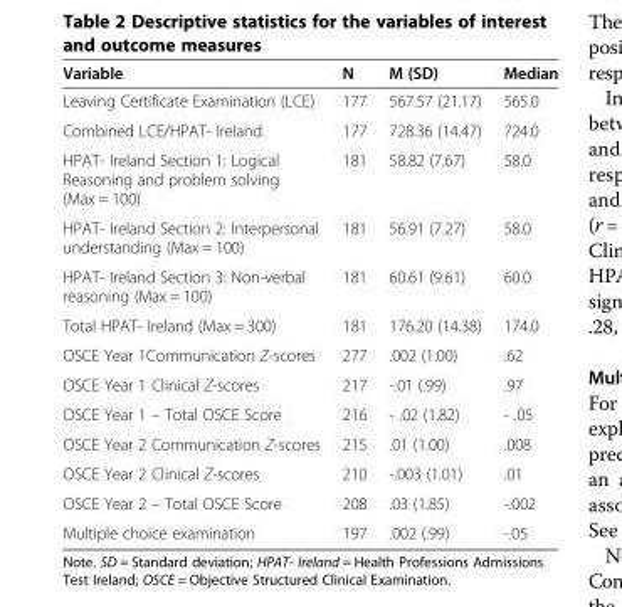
<table><thead><tr><td>Variable</td><td>N</td><td>M (SD)</td><td>Median</td></tr></thead><tbody><tr><td>Leaving Certificate Examination (LCE)</td><td>177</td><td>567.57 (21.17)</td><td>565.0</td></tr><tr><td>Combined LCE/HPAT- Ireland</td><td>177</td><td>728.36 (14.47)</td><td>724.0</td></tr><tr><td>HPAT- Ireland Section 1: Logical Reasoning and problem solving (Max = 100)</td><td>181</td><td>58.82 (7.67)</td><td>58.0</td></tr><tr><td>HPAT- Ireland Section 2: Interpersonal understanding (Max = 100)</td><td>181</td><td>56.91 (7.27)</td><td>58.0</td></tr><tr><td>HPAT- Ireland Section 3: Non-verbal reasoning (Max = 100)</td><td>181</td><td>60.61 (9.61)</td><td>60.0</td></tr><tr><td>Total HPAT- Ireland (Max = 300)</td><td>181</td><td>176.20 (14.38)</td><td>174.0</td></tr><tr><td>OSCE Year 1Communication Z-scores</td><td>277</td><td>.002 (1.00)</td><td>.62</td></tr><tr><td>OSCE Year 1 Clinical Z-scores</td><td>217</td><td>-.01 (.99)</td><td>.97</td></tr><tr><td>OSCE Year 1 – Total OSCE Score</td><td>216</td><td>- .02 (1.82)</td><td>- .05</td></tr><tr><td>OSCE Year 2 Communication Z-scores</td><td>215</td><td>.01 (1.00)</td><td>.008</td></tr><tr><td>OSCE Year 2 Clinical Z-scores</td><td>210</td><td>-.003 (1.01)</td><td>.01</td></tr><tr><td>OSCE Year 2 – Total OSCE Score</td><td>208</td><td>.03 (1.85)</td><td>-.002</td></tr><tr><td>Multiple choice examination</td><td>197</td><td>.002 (.99)</td><td>-.05</td></tr></tbody></table>